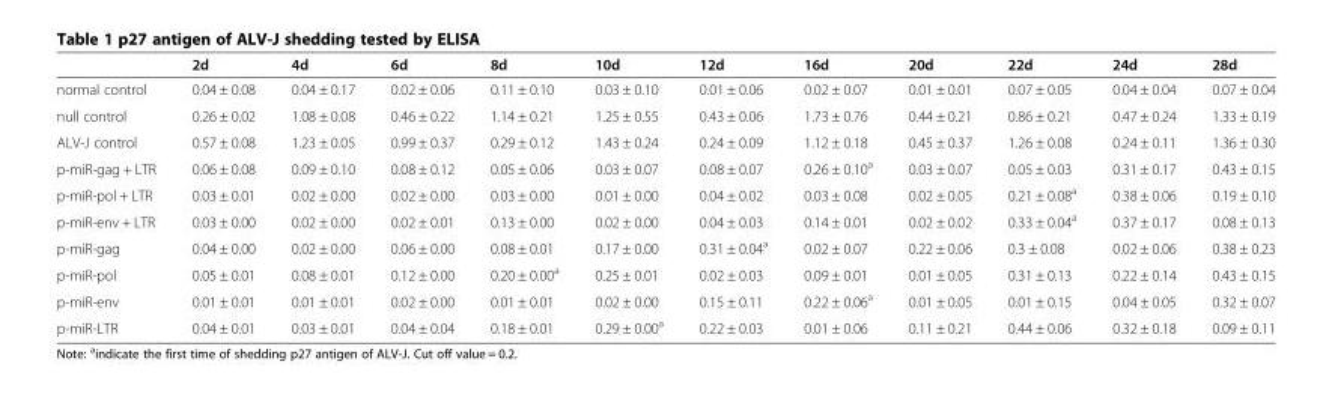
<table><thead><tr><td></td><td>2d</td><td>4d</td><td>6d</td><td>8d</td><td>10d</td><td>12d</td><td>16d</td><td>20d</td><td>22d</td><td>24d</td><td>28d</td></tr></thead><tbody><tr><td>normal control</td><td>0.04 ± 0.08</td><td>0.04 ± 0.17</td><td>0.02 ± 0.06</td><td>0.11 ± 0.10</td><td>0.03 ± 0.10</td><td>0.01 ± 0.06</td><td>0.02 ± 0.07</td><td>0.01 ± 0.01</td><td>0.07 ± 0.05</td><td>0.04 ± 0.04</td><td>0.07 ± 0.04</td></tr><tr><td>null control</td><td>0.26 ± 0.02</td><td>1.08 ± 0.08</td><td>0.46 ± 0.22</td><td>1.14 ± 0.21</td><td>1.25 ± 0.55</td><td>0.43 ± 0.06</td><td>1.73 ± 0.76</td><td>0.44 ± 0.21</td><td>0.86 ± 0.21</td><td>0.47 ± 0.24</td><td>1.33 ± 0.19</td></tr><tr><td>ALV-J control</td><td>0.57 ± 0.08</td><td>1.23 ± 0.05</td><td>0.99 ± 0.37</td><td>0.29 ± 0.12</td><td>1.43 ± 0.24</td><td>0.24 ± 0.09</td><td>1.12 ± 0.18</td><td>0.45 ± 0.37</td><td>1.26 ± 0.08</td><td>0.24 ± 0.11</td><td>1.36 ± 0.30</td></tr><tr><td>p-miR-gag + LTR</td><td>0.06 ± 0.08</td><td>0.09 ± 0.10</td><td>0.08 ± 0.12</td><td>0.05 ± 0.06</td><td>0.03 ± 0.07</td><td>0.08 ± 0.07</td><td>0.26 ± 0.10<sup>a</sup></td><td>0.03 ± 0.07</td><td>0.05 ± 0.03</td><td>0.31 ± 0.17</td><td>0.43 ± 0.15</td></tr><tr><td>p-miR-pol + LTR</td><td>0.03 ± 0.01</td><td>0.02 ± 0.00</td><td>0.02 ± 0.00</td><td>0.03 ± 0.00</td><td>0.01 ± 0.00</td><td>0.04 ± 0.02</td><td>0.03 ± 0.08</td><td>0.02 ± 0.05</td><td>0.21 ± 0.08<sup>a</sup></td><td>0.38 ± 0.06</td><td>0.19 ± 0.10</td></tr><tr><td>p-miR-env + LTR</td><td>0.03 ± 0.00</td><td>0.02 ± 0.00</td><td>0.02 ± 0.01</td><td>0.13 ± 0.00</td><td>0.02 ± 0.00</td><td>0.04 ± 0.03</td><td>0.14 ± 0.01</td><td>0.02 ± 0.02</td><td>0.33 ± 0.04<sup>a</sup></td><td>0.37 ± 0.17</td><td>0.08 ± 0.13</td></tr><tr><td>p-miR-gag</td><td>0.04 ± 0.00</td><td>0.02 ± 0.00</td><td>0.06 ± 0.00</td><td>0.08 ± 0.01</td><td>0.17 ± 0.00</td><td>0.31 ± 0.04<sup>a</sup></td><td>0.02 ± 0.07</td><td>0.22 ± 0.06</td><td>0.3 ± 0.08</td><td>0.02 ± 0.06</td><td>0.38 ± 0.23</td></tr><tr><td>p-miR-pol</td><td>0.05 ± 0.01</td><td>0.08 ± 0.01</td><td>0.12 ± 0.00</td><td>0.20 ± 0.00<sup>a</sup></td><td>0.25 ± 0.01</td><td>0.02 ± 0.03</td><td>0.09 ± 0.01</td><td>0.01 ± 0.05</td><td>0.31 ± 0.13</td><td>0.22 ± 0.14</td><td>0.43 ± 0.15</td></tr><tr><td>p-miR-env</td><td>0.01 ± 0.01</td><td>0.01 ± 0.01</td><td>0.02 ± 0.00</td><td>0.01 ± 0.01</td><td>0.02 ± 0.00</td><td>0.15 ± 0.11</td><td>0.22 ± 0.06<sup>a</sup></td><td>0.01 ± 0.05</td><td>0.01 ± 0.15</td><td>0.04 ± 0.05</td><td>0.32 ± 0.07</td></tr><tr><td>p-miR-LTR</td><td>0.04 ± 0.01</td><td>0.03 ± 0.01</td><td>0.04 ± 0.04</td><td>0.18 ± 0.01</td><td>0.29 ± 0.00<sup>a</sup></td><td>0.22 ± 0.03</td><td>0.01 ± 0.06</td><td>0.11 ± 0.21</td><td>0.44 ± 0.06</td><td>0.32 ± 0.18</td><td>0.09 ± 0.11</td></tr></tbody></table>